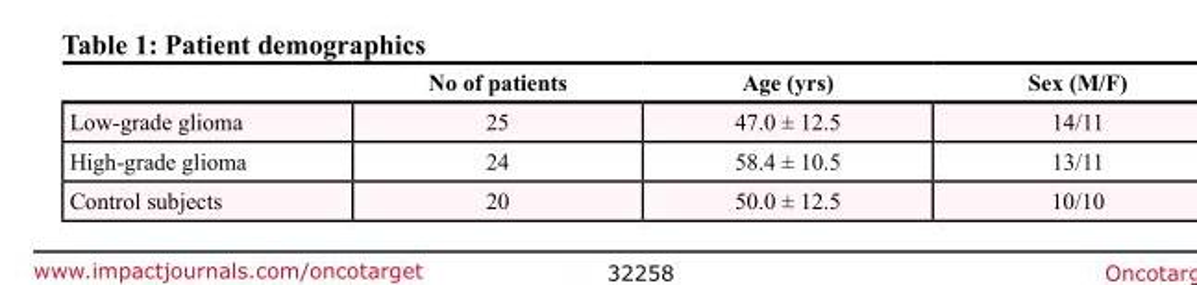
<table><thead><tr><td></td><td>No of patients</td><td>Age (yrs)</td><td>Sex (M/F)</td></tr></thead><tbody><tr><td>Low-grade glioma</td><td>25</td><td>47.0 ± 12.5</td><td>14/11</td></tr><tr><td>High-grade glioma</td><td>24</td><td>58.4 ± 10.5</td><td>13/11</td></tr><tr><td>Control subjects</td><td>20</td><td>50.0 ± 12.5</td><td>10/10</td></tr></tbody></table>